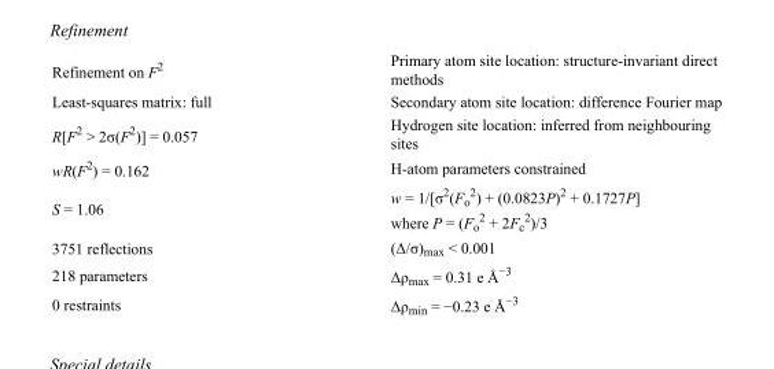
<table><tbody><tr><td>Refinement on F<sup>2</sup></td><td>Primary atom site location: structure-invariant direct methods</td></tr><tr><td>Least-squares matrix: full</td><td>Secondary atom site location: difference Fourier map</td></tr><tr><td>R[F<sup>2</sup> &gt; 2σ(F<sup>2</sup>)] = 0.057</td><td>Hydrogen site location: inferred from neighbouring sites</td></tr><tr><td>wR(F<sup>2</sup>) = 0.162</td><td>H-atom parameters constrained</td></tr><tr><td>S = 1.06</td><td>w = 1/[σ<sup>2</sup>(F<sub>o</sub> <sup>2</sup>) + (0.0823P)<sup>2</sup> + 0.1727P] where P = (F<sub>o</sub> <sup>2</sup> + 2F<sub>c</sub> <sup>2</sup>)/3</td></tr><tr><td>3751 reflections</td><td>(Δ/σ)<sub>max</sub> &lt; 0.001</td></tr><tr><td>218 parameters</td><td>Δρ<sub>max</sub> = 0.31 e Å<sup>−3</sup></td></tr><tr><td>0 restraints</td><td>Δρ<sub>min</sub> = −0.23 e Å<sup>−3</sup></td></tr></tbody></table>